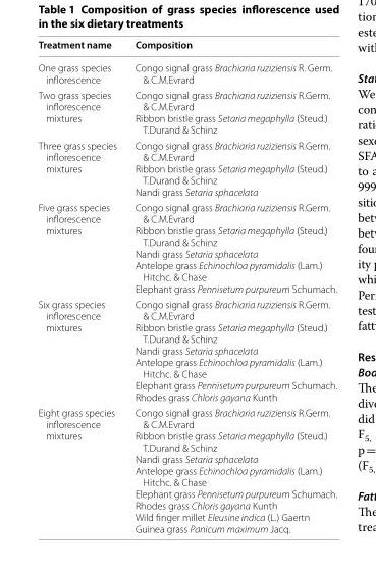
<table><thead><tr><td>Treatment name</td><td>Composition</td></tr></thead><tbody><tr><td>One grass species inflorescence</td><td>Congo signal grass Brachiaria ruziziensis R. Germ. &amp; C.M.Evrard</td></tr><tr><td>Two grass species inflorescence mixtures</td><td>Congo signal grass Brachiaria ruziziensis R.Germ. &amp; C.M.Evrard Ribbon bristle grass Setaria megaphylla (Steud.) T.Durand &amp; Schinz</td></tr><tr><td>Three grass species inflorescence mixtures</td><td>Congo signal grass Brachiaria ruziziensis R.Germ. &amp; C.M.Evrard Ribbon bristle grass Setaria megaphylla (Steud.) T.Durand &amp; Schinz Nandi grass Setaria sphacelata</td></tr><tr><td>Five grass species inflorescence mixtures</td><td>Congo signal grass Brachiaria ruziziensis R.Germ. &amp; C.M.Evrard Ribbon bristle grass Setaria megaphylla (Steud.) T.Durand &amp; Schinz Nandi grass Setaria sphacelata Antelope grass Echinochloa pyramidalis (Lam.) Hitchc. &amp; Chase Elephant grass Pennisetum purpureum Schumach.</td></tr><tr><td>Six grass species inflorescence mixtures</td><td>Congo signal grass Brachiaria ruziziensis R.Germ. &amp; C.M.Evrard Ribbon bristle grass Setaria megaphylla (Steud.) T.Durand &amp; Schinz Nandi grass Setaria sphacelata Antelope grass Echinochloa pyramidalis (Lam.) Hitchc. &amp; Chase Elephant grass Pennisetum purpureum Schumach. Rhodes grass Chloris gayana Kunth</td></tr><tr><td>Eight grass species inflorescence mixtures</td><td>Congo signal grass Brachiaria ruziziensis R.Germ. &amp; C.M.Evrard Ribbon bristle grass Setaria megaphylla (Steud.) T.Durand &amp; Schinz Nandi grass Setaria sphacelata Antelope grass Echinochloa pyramidalis (Lam.) Hitchc. &amp; Chase Elephant grass Pennisetum purpureum Schumach. Rhodes grass Chloris gayana Kunth Wild finger millet Eleusine indica (L.) Gaertn Guinea grass Panicum maximum Jacq.</td></tr></tbody></table>